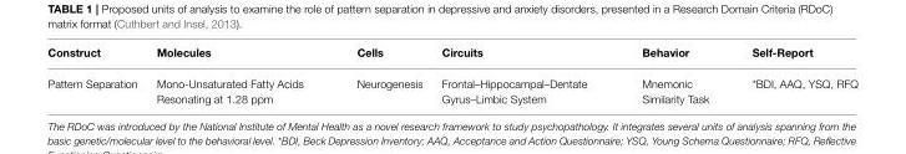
<table><thead><tr><td>Construct</td><td>Molecules</td><td>Cells</td><td>Circuits</td><td>Behavior</td><td>Self-Report</td></tr></thead><tbody><tr><td>Pattern Separation</td><td>Mono-Unsaturated Fatty Acids Resonating at 1.28 ppm</td><td>Neurogenesis</td><td>Frontal–Hippocampal–Dentate Gyrus–Limbic System</td><td>Mnemonic Similarity Task</td><td>*BDI, AAQ, YSQ, RFQ</td></tr></tbody></table>